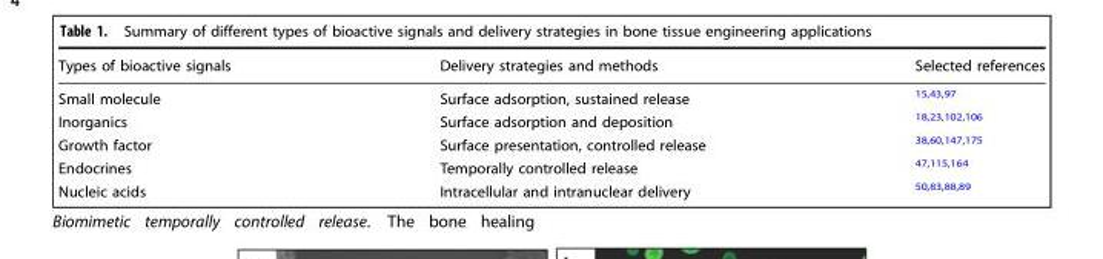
<table><thead><tr><td>Types of bioactive signals</td><td>Delivery strategies and methods</td><td>Selected references</td></tr></thead><tbody><tr><td>Small molecule</td><td>Surface adsorption, sustained release</td><td><sup>15,43,97</sup></td></tr><tr><td>Inorganics</td><td>Surface adsorption and deposition</td><td><sup>18,23,102,106</sup></td></tr><tr><td>Growth factor</td><td>Surface presentation, controlled release</td><td><sup>38,60,147,175</sup></td></tr><tr><td>Endocrines</td><td>Temporally controlled release</td><td><sup>47,115,164</sup></td></tr><tr><td>Nucleic acids</td><td>Intracellular and intranuclear delivery</td><td><sup>50,83,88,89</sup></td></tr></tbody></table>